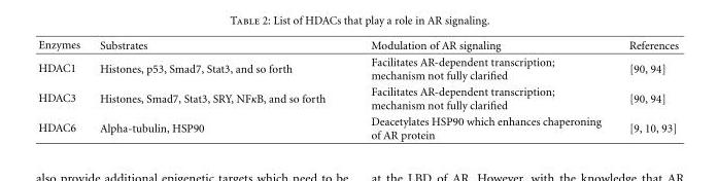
<table><thead><tr><td>Enzymes</td><td>Substrates</td><td>Modulation of AR signaling</td><td>References</td></tr></thead><tbody><tr><td>HDAC1</td><td>Histones, p53, Smad7, Stat3, and so forth</td><td>Facilitates AR-dependent transcription; mechanism not fully clarified</td><td>[90, 94]</td></tr><tr><td>HDAC3</td><td>Histones, Smad7, Stat3, SRY, NFκB, and so forth</td><td>Facilitates AR-dependent transcription; mechanism not fully clarified</td><td>[90, 94]</td></tr><tr><td>HDAC6</td><td>Alpha-tubulin, HSP90</td><td>Deacetylates HSP90 which enhances chaperoning of AR protein</td><td>[9, 10, 93]</td></tr></tbody></table>